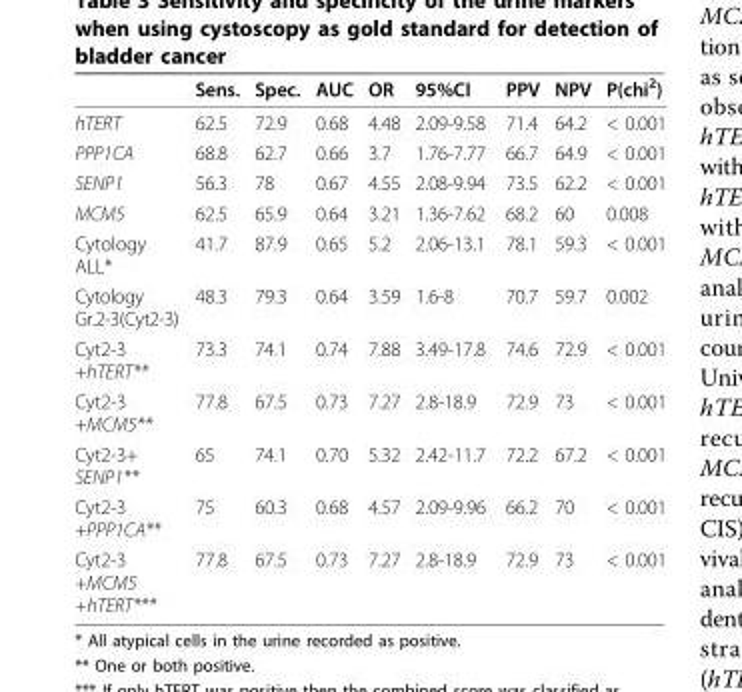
<table><thead><tr><td></td><td>Sens.</td><td>Spec.</td><td>AUC</td><td>OR</td><td>95%CI</td><td>PPV</td><td>NPV</td><td>P(chi<sup>2</sup>)</td></tr></thead><tbody><tr><td>hTERT</td><td>62.5</td><td>72.9</td><td>0.68</td><td>4.48</td><td>2.09-9.58</td><td>71.4</td><td>64.2</td><td>&lt; 0.001</td></tr><tr><td>PPP1CA</td><td>68.8</td><td>62.7</td><td>0.66</td><td>3.7</td><td>1.76-7.77</td><td>66.7</td><td>64.9</td><td>&lt; 0.001</td></tr><tr><td>SENP1</td><td>56.3</td><td>78</td><td>0.67</td><td>4.55</td><td>2.08-9.94</td><td>73.5</td><td>62.2</td><td>&lt; 0.001</td></tr><tr><td>MCM5</td><td>62.5</td><td>65.9</td><td>0.64</td><td>3.21</td><td>1.36-7.62</td><td>68.2</td><td>60</td><td>0.008</td></tr><tr><td>Cytology ALL*</td><td>41.7</td><td>87.9</td><td>0.65</td><td>5.2</td><td>2.06-13.1</td><td>78.1</td><td>59.3</td><td>&lt; 0.001</td></tr><tr><td>Cytology Gr.2-3(Cyt2-3)</td><td>48.3</td><td>79.3</td><td>0.64</td><td>3.59</td><td>1.6-8</td><td>70.7</td><td>59.7</td><td>0.002</td></tr><tr><td>Cyt2-3 +hTERT**</td><td>73.3</td><td>74.1</td><td>0.74</td><td>7.88</td><td>3.49-17.8</td><td>74.6</td><td>72.9</td><td>&lt; 0.001</td></tr><tr><td>Cyt2-3 +MCM5**</td><td>77.8</td><td>67.5</td><td>0.73</td><td>7.27</td><td>2.8-18.9</td><td>72.9</td><td>73</td><td>&lt; 0.001</td></tr><tr><td>Cyt2-3+ SENP1**</td><td>65</td><td>74.1</td><td>0.70</td><td>5.32</td><td>2.42-11.7</td><td>72.2</td><td>67.2</td><td>&lt; 0.001</td></tr><tr><td>Cyt2-3 +PPP1CA**</td><td>75</td><td>60.3</td><td>0.68</td><td>4.57</td><td>2.09-9.96</td><td>66.2</td><td>70</td><td>&lt; 0.001</td></tr><tr><td>Cyt2-3 +MCM5 +hTERT***</td><td>77.8</td><td>67.5</td><td>0.73</td><td>7.27</td><td>2.8-18.9</td><td>72.9</td><td>73</td><td>&lt; 0.001</td></tr></tbody></table>